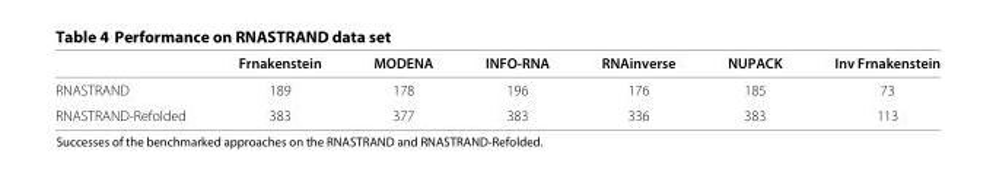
<table><thead><tr><td></td><td>Frnakenstein</td><td>MODENA</td><td>INFO-RNA</td><td>RNAinverse</td><td>NUPACK</td><td>Inv Frnakenstein</td></tr></thead><tbody><tr><td>RNASTRAND</td><td>189</td><td>178</td><td>196</td><td>176</td><td>185</td><td>73</td></tr><tr><td>RNASTRAND-Refolded</td><td>383</td><td>377</td><td>383</td><td>336</td><td>383</td><td>113</td></tr></tbody></table>